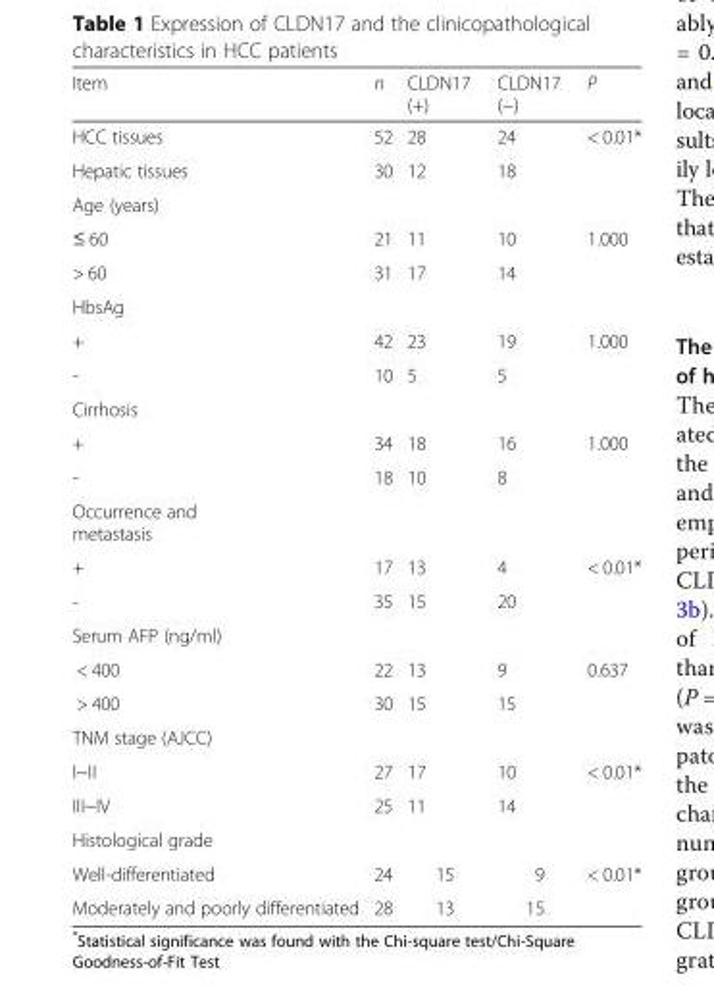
<table><thead><tr><td>Item</td><td>n</td><td>CLDN17 (+)</td><td>CLDN17 (−)</td><td>P</td></tr></thead><tbody><tr><td>HCC tissues</td><td>52</td><td>28</td><td>24</td><td>&lt; 0.01*</td></tr><tr><td>Hepatic tissues</td><td>30</td><td>12</td><td>18</td><td></td></tr><tr><td colspan="5">Age (years)</td></tr><tr><td>≤ 60</td><td>21</td><td>11</td><td>10</td><td>1.000</td></tr><tr><td>&gt; 60</td><td>31</td><td>17</td><td>14</td><td></td></tr><tr><td colspan="5">HbsAg</td></tr><tr><td>+</td><td>42</td><td>23</td><td>19</td><td>1.000</td></tr><tr><td>-</td><td>10</td><td>5</td><td>5</td><td></td></tr><tr><td colspan="5">Cirrhosis</td></tr><tr><td>+</td><td>34</td><td>18</td><td>16</td><td>1.000</td></tr><tr><td>-</td><td>18</td><td>10</td><td>8</td><td></td></tr><tr><td colspan="5">Occurrence and metastasis</td></tr><tr><td>+</td><td>17</td><td>13</td><td>4</td><td>&lt; 0.01*</td></tr><tr><td>-</td><td>35</td><td>15</td><td>20</td><td></td></tr><tr><td colspan="5">Serum AFP (ng/ml)</td></tr><tr><td>&lt; 400</td><td>22</td><td>13</td><td>9</td><td>0.637</td></tr><tr><td>&gt; 400</td><td>30</td><td>15</td><td>15</td><td></td></tr><tr><td colspan="5">TNM stage (AJCC)</td></tr><tr><td>I~II</td><td>27</td><td>17</td><td>10</td><td>&lt; 0.01*</td></tr><tr><td>III~IV</td><td>25</td><td>11</td><td>14</td><td></td></tr><tr><td colspan="5">Histological grade</td></tr><tr><td>Well-differentiated</td><td>24</td><td>15</td><td>9</td><td>&lt; 0.01*</td></tr><tr><td>Moderately and poorly differentiated</td><td>28</td><td>13</td><td>15</td><td></td></tr></tbody></table>